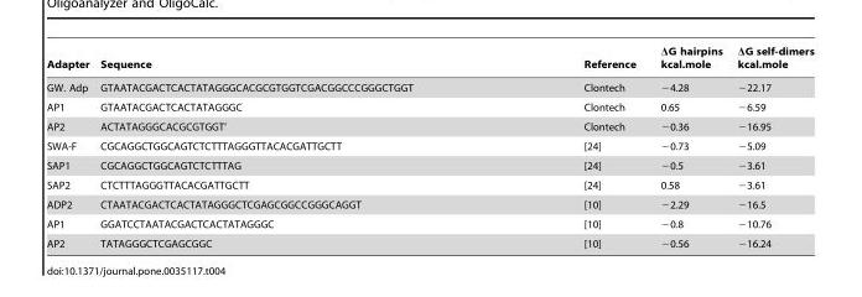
<table><thead><tr><td>Adapter</td><td>Sequence</td><td>Reference</td><td>ΔG hairpins kcal.mole</td><td>ΔG self-dimers kcal.mole</td></tr></thead><tbody><tr><td>GW. Adp</td><td>GTAATACGACTCACTATAGGGCACGCGTGGTCGACGGCCCGGGCTGGT</td><td>Clontech</td><td>−4.28</td><td>−22.17</td></tr><tr><td>AP1</td><td>GTAATACGACTCACTATAGGGC</td><td>Clontech</td><td>0.65</td><td>−6.59</td></tr><tr><td>AP2</td><td>ACTATAGGGCACGCGTGGT’</td><td>Clontech</td><td>−0.36</td><td>−16.95</td></tr><tr><td>SWA-F</td><td>CGCAGGCTGGCAGTCTCTTTAGGGTTACACGATTGCTT</td><td>[24]</td><td>−0.73</td><td>−5.09</td></tr><tr><td>SAP1</td><td>CGCAGGCTGGCAGTCTCTTTAG</td><td>[24]</td><td>−0.5</td><td>−3.61</td></tr><tr><td>SAP2</td><td>CTCTTTAGGGTTACACGATTGCTT</td><td>[24]</td><td>0.58</td><td>−3.61</td></tr><tr><td>ADP2</td><td>CTAATACGACTCACTATAGGGCTCGAGCGGCCGGGCAGGT</td><td>[10]</td><td>−2.29</td><td>−16.5</td></tr><tr><td>AP1</td><td>GGATCCTAATACGACTCACTATAGGGC</td><td>[10]</td><td>−0.8</td><td>−10.76</td></tr><tr><td>AP2</td><td>TATAGGGCTCGAGCGGC</td><td>[10]</td><td>−0.56</td><td>−16.24</td></tr></tbody></table>